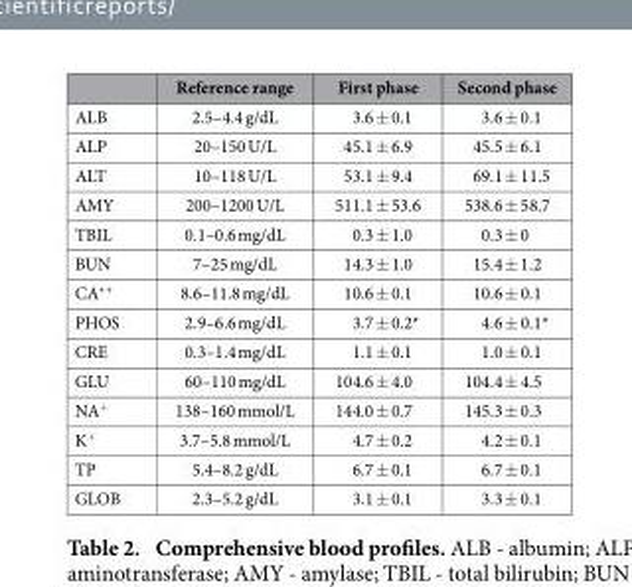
<table><thead><tr><td></td><td>Reference range</td><td>First phase</td><td>Second phase</td></tr></thead><tbody><tr><td>ALB</td><td>2.5–4.4 g/dL</td><td>3.6 ± 0.1</td><td>3.6 ± 0.1</td></tr><tr><td>ALP</td><td>20–150 U/L</td><td>45.1 ± 6.9</td><td>45.5 ± 6.1</td></tr><tr><td>ALT</td><td>10–118 U/L</td><td>53.1 ± 9.4</td><td>69.1 ± 11.5</td></tr><tr><td>AMY</td><td>200–1200 U/L</td><td>511.1 ± 53.6</td><td>538.6 ± 58.7</td></tr><tr><td>TBIL</td><td>0.1–0.6 mg/dL</td><td>0.3 ± 1.0</td><td>0.3 ± 0</td></tr><tr><td>BUN</td><td>7–25 mg/dL</td><td>14.3 ± 1.0</td><td>15.4 ± 1.2</td></tr><tr><td>CA<sup>++</sup></td><td>8.6–11.8 mg/dL</td><td>10.6 ± 0.1</td><td>10.6 ± 0.1</td></tr><tr><td>PHOS</td><td>2.9–6.6 mg/dL</td><td>3.7 ± 0.2*</td><td>4.6 ± 0.1*</td></tr><tr><td>CRE</td><td>0.3–1.4 mg/dL</td><td>1.1 ± 0.1</td><td>1.0 ± 0.1</td></tr><tr><td>GLU</td><td>60–110 mg/dL</td><td>104.6 ± 4.0</td><td>104.4 ± 4.5</td></tr><tr><td>NA<sup>+</sup></td><td>138–160 mmol/L</td><td>144.0 ± 0.7</td><td>145.3 ± 0.3</td></tr><tr><td>K<sup>+</sup></td><td>3.7–5.8 mmol/L</td><td>4.7 ± 0.2</td><td>4.2 ± 0.1</td></tr><tr><td>TP</td><td>5.4–8.2 g/dL</td><td>6.7 ± 0.1</td><td>6.7 ± 0.1</td></tr><tr><td>GLOB</td><td>2.3–5.2 g/dL</td><td>3.1 ± 0.1</td><td>3.3 ± 0.1</td></tr></tbody></table>